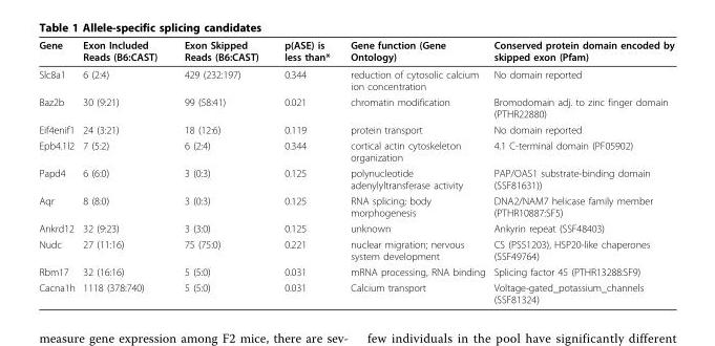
<table><thead><tr><td>Gene</td><td>Exon Included Reads (B6:CAST)</td><td>Exon Skipped Reads (B6:CAST)</td><td>p(ASE) is less than*</td><td>Gene function (Gene Ontology)</td><td>Conserved protein domain encoded by skipped exon (Pfam)</td></tr></thead><tbody><tr><td>Slc8a1</td><td>6 (2:4)</td><td>429 (232:197)</td><td>0.344</td><td>reduction of cytosolic calcium ion concentration</td><td>No domain reported</td></tr><tr><td>Baz2b</td><td>30 (9:21)</td><td>99 (58:41)</td><td>0.021</td><td>chromatin modification</td><td>Bromodomain adj. to zinc finger domain (PTHR22880)</td></tr><tr><td>Eif4enif1</td><td>24 (3:21)</td><td>18 (12:6)</td><td>0.119</td><td>protein transport</td><td>No domain reported</td></tr><tr><td>Epb4.1l2</td><td>7 (5:2)</td><td>6 (2:4)</td><td>0.344</td><td>cortical actin cytoskeleton organization</td><td>4.1 C-terminal domain (PF05902)</td></tr><tr><td>Papd4</td><td>6 (6:0)</td><td>3 (0:3)</td><td>0.125</td><td>polynucleotide adenylyltransferase activity</td><td>PAP/OAS1 substrate-binding domain (SSF81631))</td></tr><tr><td>Aqr</td><td>8 (8:0)</td><td>3 (0:3)</td><td>0.125</td><td>RNA splicing; body morphogenesis</td><td>DNA2/NAM7 helicase family member (PTHR10887:SF5)</td></tr><tr><td>Ankrd12</td><td>32 (9:23)</td><td>3 (3:0)</td><td>0.125</td><td>unknown</td><td>Ankyrin repeat (SSF48403)</td></tr><tr><td>Nudc</td><td>27 (11:16)</td><td>75 (75:0)</td><td>0.221</td><td>nuclear migration; nervous system development</td><td>CS (PS51203), HSP20-like chaperones (SSF49764)</td></tr><tr><td>Rbm17</td><td>32 (16:16)</td><td>5 (5:0)</td><td>0.031</td><td>mRNA processing, RNA binding</td><td>Splicing factor 45 (PTHR13288:SF9)</td></tr><tr><td>Cacna1h</td><td>1118 (378:740)</td><td>5 (5:0)</td><td>0.031</td><td>Calcium transport</td><td>Voltage-gated_potassium_channels (SSF81324)</td></tr></tbody></table>